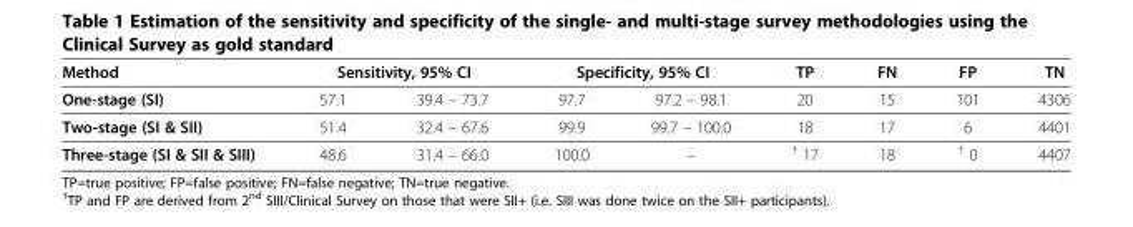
<table><thead><tr><td rowspan="2">Method One-stage (SI)</td><td colspan="2">Sensitivity, 95% CI</td><td colspan="2">Specificity, 95% CI</td><td rowspan="2">TP 20</td><td rowspan="2">FN 15</td><td rowspan="2">FP 101</td><td rowspan="2">TN 4306</td></tr><tr><td>57.1</td><td>39.4 – 73.7</td><td>97.7</td><td>97.2 – 98.1</td></tr></thead><tbody><tr><td>Two-stage (SI &amp; SII)</td><td>51.4</td><td>32.4 – 67.6</td><td>99.9</td><td>99.7 – 100.0</td><td>18</td><td>17</td><td>6</td><td>4401</td></tr><tr><td>Three-stage (SI &amp; SII &amp; SIII)</td><td>48.6</td><td>31.4 – 66.0</td><td>100.0</td><td>–</td><td><sup>†</sup> 17</td><td>18</td><td><sup>†</sup> 0</td><td>4407</td></tr></tbody></table>